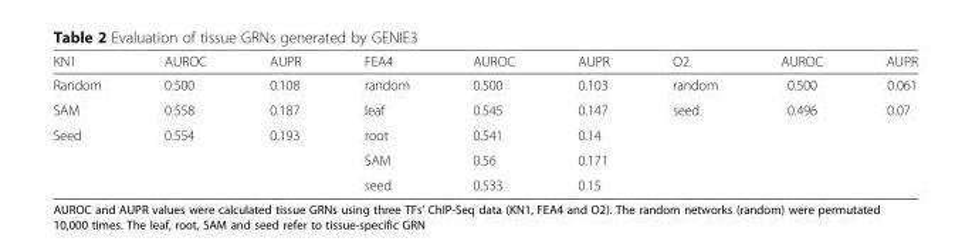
<table><thead><tr><td>KN1</td><td>AUROC</td><td>AUPR</td><td>FEA4</td><td>AUROC</td><td>AUPR</td><td>O2</td><td>AUROC</td><td>AUPR</td></tr></thead><tbody><tr><td>Random</td><td>0.500</td><td>0.108</td><td>random</td><td>0.500</td><td>0.103</td><td>random</td><td>0.500</td><td>0.061</td></tr><tr><td>SAM</td><td>0.558</td><td>0.187</td><td>leaf</td><td>0.545</td><td>0.147</td><td>seed</td><td>0.496</td><td>0.07</td></tr><tr><td rowspan="3">Seed</td><td>0.554</td><td>0.193</td><td>root</td><td>0.541</td><td>0.14</td><td></td><td></td><td></td></tr><tr><td></td><td></td><td>SAM</td><td>0.56</td><td>0.171</td><td></td><td></td><td></td></tr><tr><td></td><td></td><td>seed</td><td>0.533</td><td>0.15</td><td></td><td></td><td></td></tr></tbody></table>